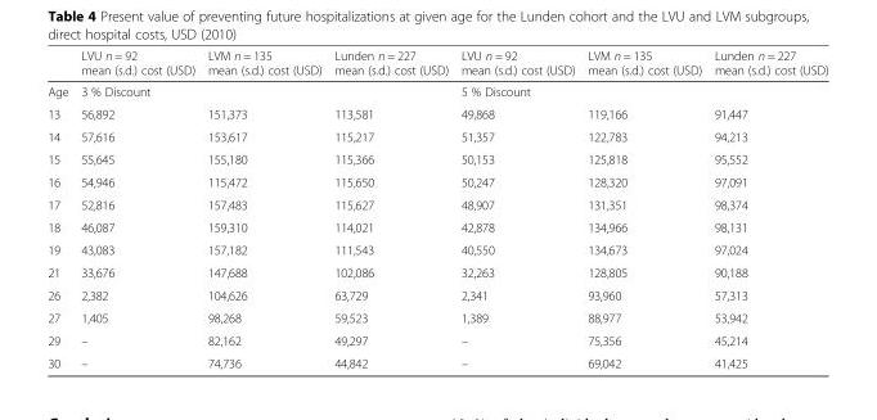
<table><thead><tr><td></td><td>LVU n = 92 mean (s.d.) cost (USD)</td><td>LVM n = 135 mean (s.d.) cost (USD)</td><td>Lunden n = 227 mean (s.d.) cost (USD)</td><td>LVU n = 92 mean (s.d.) cost (USD)</td><td>LVM n = 135 mean (s.d.) cost (USD)</td><td>Lunden n = 227 mean (s.d.) cost (USD)</td></tr></thead><tbody><tr><td>Age</td><td colspan="3">3 % Discount</td><td colspan="3">5 % Discount</td></tr><tr><td>13</td><td>56,892</td><td>151,373</td><td>113,581</td><td>49,868</td><td>119,166</td><td>91,447</td></tr><tr><td>14</td><td>57,616</td><td>153,617</td><td>115,217</td><td>51,357</td><td>122,783</td><td>94,213</td></tr><tr><td>15</td><td>55,645</td><td>155,180</td><td>115,366</td><td>50,153</td><td>125,818</td><td>95,552</td></tr><tr><td>16</td><td>54,946</td><td>115,472</td><td>115,650</td><td>50,247</td><td>128,320</td><td>97,091</td></tr><tr><td>17</td><td>52,816</td><td>157,483</td><td>115,627</td><td>48,907</td><td>131,351</td><td>98,374</td></tr><tr><td>18</td><td>46,087</td><td>159,310</td><td>114,021</td><td>42,878</td><td>134,966</td><td>98,131</td></tr><tr><td>19</td><td>43,083</td><td>157,182</td><td>111,543</td><td>40,550</td><td>134,673</td><td>97,024</td></tr><tr><td>21</td><td>33,676</td><td>147,688</td><td>102,086</td><td>32,263</td><td>128,805</td><td>90,188</td></tr><tr><td>26</td><td>2,382</td><td>104,626</td><td>63,729</td><td>2,341</td><td>93,960</td><td>57,313</td></tr><tr><td>27</td><td>1,405</td><td>98,268</td><td>59,523</td><td>1,389</td><td>88,977</td><td>53,942</td></tr><tr><td>29</td><td>–</td><td>82,162</td><td>49,297</td><td>–</td><td>75,356</td><td>45,214</td></tr><tr><td>30</td><td>–</td><td>74,736</td><td>44,842</td><td>–</td><td>69,042</td><td>41,425</td></tr></tbody></table>